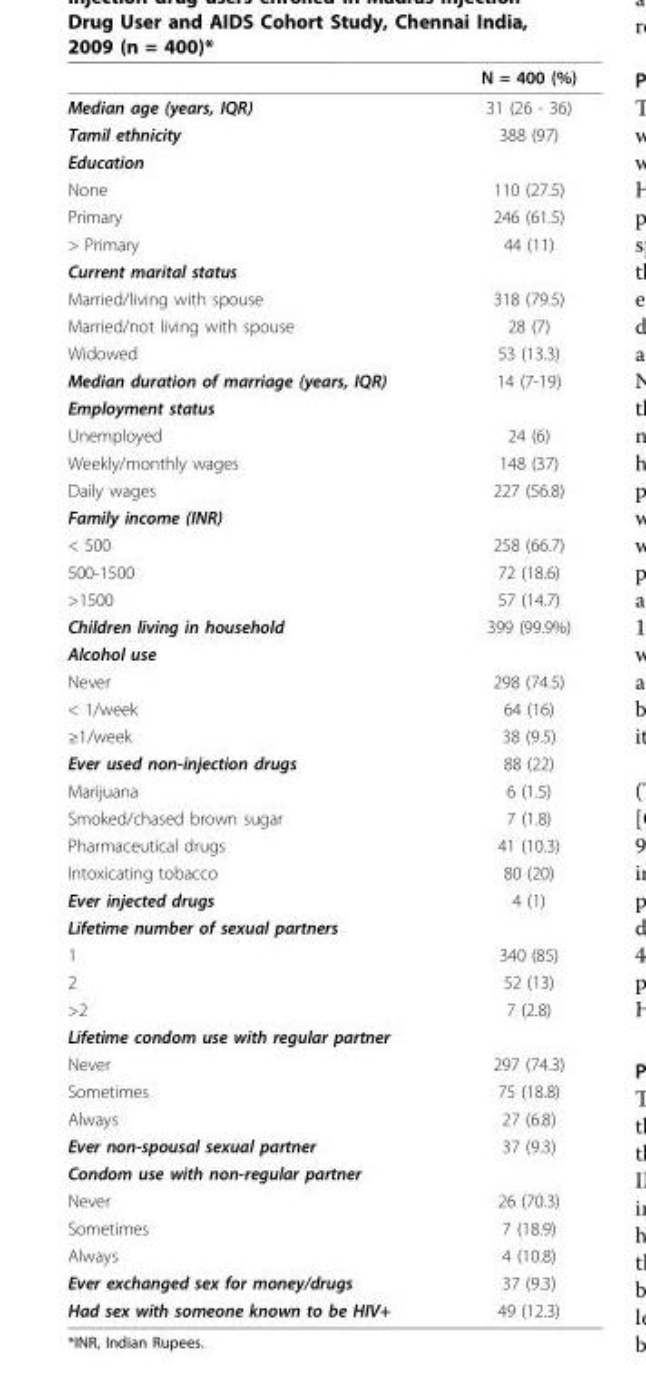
<table><thead><tr><td></td><td>N = 400 (%)</td></tr></thead><tbody><tr><td>Median age (years, IQR)</td><td>31 (26 - 36)</td></tr><tr><td>Tamil ethnicity</td><td>388 (97)</td></tr><tr><td colspan="2">Education</td></tr><tr><td>None</td><td>110 (27.5)</td></tr><tr><td>Primary</td><td>246 (61.5)</td></tr><tr><td>&gt; Primary</td><td>44 (11)</td></tr><tr><td colspan="2">Current marital status</td></tr><tr><td>Married/living with spouse</td><td>318 (79.5)</td></tr><tr><td>Married/not living with spouse</td><td>28 (7)</td></tr><tr><td>Widowed</td><td>53 (13.3)</td></tr><tr><td>Median duration of marriage (years, IQR)</td><td>14 (7-19)</td></tr><tr><td colspan="2">Employment status</td></tr><tr><td>Unemployed</td><td>24 (6)</td></tr><tr><td>Weekly/monthly wages</td><td>148 (37)</td></tr><tr><td>Daily wages</td><td>227 (56.8)</td></tr><tr><td colspan="2">Family income (INR)</td></tr><tr><td>&lt; 500</td><td>258 (66.7)</td></tr><tr><td>500-1500</td><td>72 (18.6)</td></tr><tr><td>&gt;1500</td><td>57 (14.7)</td></tr><tr><td>Children living in household</td><td>399 (99.9%)</td></tr><tr><td colspan="2">Alcohol use</td></tr><tr><td>Never</td><td>298 (74.5)</td></tr><tr><td>&lt; 1/week</td><td>64 (16)</td></tr><tr><td>≥1/week</td><td>38 (9.5)</td></tr><tr><td>Ever used non-injection drugs</td><td>88 (22)</td></tr><tr><td>Marijuana</td><td>6 (1.5)</td></tr><tr><td>Smoked/chased brown sugar</td><td>7 (1.8)</td></tr><tr><td>Pharmaceutical drugs</td><td>41 (10.3)</td></tr><tr><td>Intoxicating tobacco</td><td>80 (20)</td></tr><tr><td>Ever injected drugs</td><td>4 (1)</td></tr><tr><td colspan="2">Lifetime number of sexual partners</td></tr><tr><td>1</td><td>340 (85)</td></tr><tr><td>2</td><td>52 (13)</td></tr><tr><td>&gt;2</td><td>7 (2.8)</td></tr><tr><td colspan="2">Lifetime condom use with regular partner</td></tr><tr><td>Never</td><td>297 (74.3)</td></tr><tr><td>Sometimes</td><td>75 (18.8)</td></tr><tr><td>Always</td><td>27 (6.8)</td></tr><tr><td>Ever non-spousal sexual partner</td><td>37 (9.3)</td></tr><tr><td colspan="2">Condom use with non-regular partner</td></tr><tr><td>Never</td><td>26 (70.3)</td></tr><tr><td>Sometimes</td><td>7 (18.9)</td></tr><tr><td>Always</td><td>4 (10.8)</td></tr><tr><td>Ever exchanged sex for money/drugs</td><td>37 (9.3)</td></tr><tr><td>Had sex with someone known to be HIV+</td><td>49 (12.3)</td></tr></tbody></table>